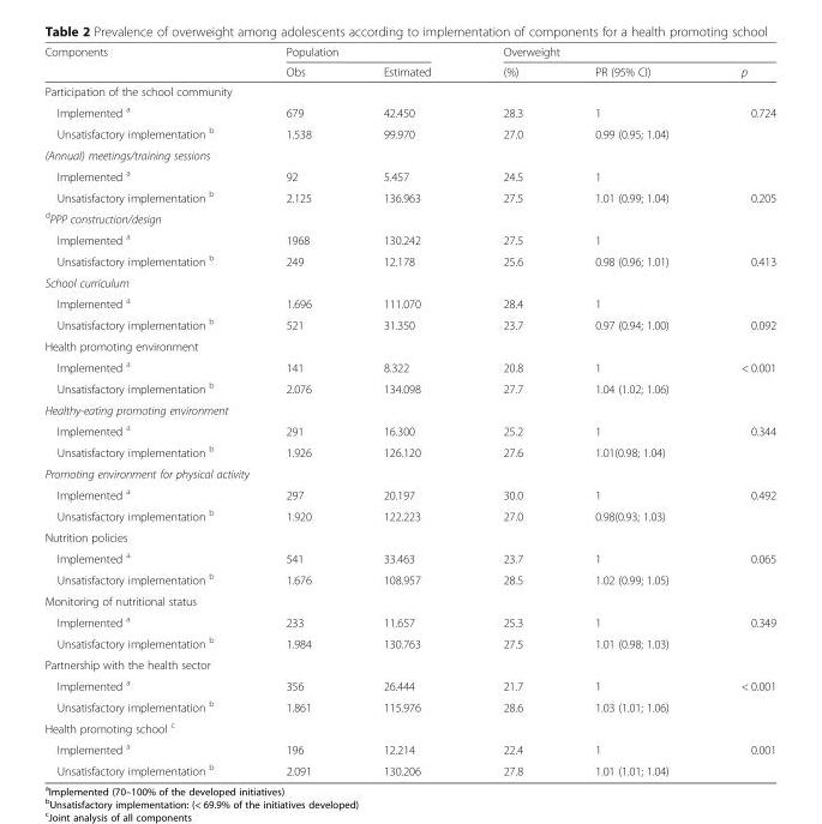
<table><thead><tr><td rowspan="2">Components</td><td colspan="2">Population</td><td colspan="3">Overweight</td></tr><tr><td>Obs</td><td>Estimated</td><td>(%)</td><td>PR (95% CI)</td><td>p</td></tr></thead><tbody><tr><td colspan="6">Participation of the school community</td></tr><tr><td>Implemented <sup>a</sup></td><td>679</td><td>42.450</td><td>28.3</td><td>1</td><td rowspan="2">0.724</td></tr><tr><td>Unsatisfactory implementation <sup>b</sup></td><td>1.538</td><td>99.970</td><td>27.0</td><td>0.99 (0.95; 1.04)</td></tr><tr><td colspan="6">(Annual) meetings/training sessions</td></tr><tr><td>Implemented <sup>a</sup></td><td>92</td><td>5.457</td><td>24.5</td><td>1</td><td></td></tr><tr><td>Unsatisfactory implementation <sup>b</sup></td><td>2.125</td><td>136.963</td><td>27.5</td><td>1.01 (0.99; 1.04)</td><td>0.205</td></tr><tr><td colspan="6"><sup>d</sup>PPP construction/design</td></tr><tr><td>Implemented <sup>a</sup></td><td>1968</td><td>130.242</td><td>27.5</td><td>1</td><td></td></tr><tr><td>Unsatisfactory implementation <sup>b</sup></td><td>249</td><td>12.178</td><td>25.6</td><td>0.98 (0.96; 1.01)</td><td>0.413</td></tr><tr><td colspan="6">School curriculum</td></tr><tr><td>Implemented <sup>a</sup></td><td>1.696</td><td>111.070</td><td>28.4</td><td>1</td><td></td></tr><tr><td>Unsatisfactory implementation <sup>b</sup></td><td>521</td><td>31.350</td><td>23.7</td><td>0.97 (0.94; 1.00)</td><td>0.092</td></tr><tr><td colspan="6">Health promoting environment</td></tr><tr><td>Implemented <sup>a</sup></td><td>141</td><td>8.322</td><td>20.8</td><td>1</td><td rowspan="2">&lt; 0.001</td></tr><tr><td>Unsatisfactory implementation <sup>b</sup></td><td>2.076</td><td>134.098</td><td>27.7</td><td>1.04 (1.02; 1.06)</td></tr><tr><td colspan="6">Healthy-eating promoting environment</td></tr><tr><td>Implemented <sup>a</sup></td><td>291</td><td>16.300</td><td>25.2</td><td>1</td><td rowspan="2">0.344</td></tr><tr><td>Unsatisfactory implementation <sup>b</sup></td><td>1.926</td><td>126.120</td><td>27.6</td><td>1.01(0.98; 1.04)</td></tr><tr><td colspan="6">Promoting environment for physical activity</td></tr><tr><td>Implemented <sup>a</sup></td><td>297</td><td>20.197</td><td>30.0</td><td>1</td><td rowspan="2">0.492</td></tr><tr><td>Unsatisfactory implementation <sup>b</sup></td><td>1.920</td><td>122.223</td><td>27.0</td><td>0.98(0.93; 1.03)</td></tr><tr><td colspan="6">Nutrition policies</td></tr><tr><td>Implemented <sup>a</sup></td><td>541</td><td>33.463</td><td>23.7</td><td>1</td><td rowspan="2">0.065</td></tr><tr><td>Unsatisfactory implementation <sup>b</sup></td><td>1.676</td><td>108.957</td><td>28.5</td><td>1.02 (0.99; 1.05)</td></tr><tr><td colspan="6">Monitoring of nutritional status</td></tr><tr><td>Implemented <sup>a</sup></td><td>233</td><td>11.657</td><td>25.3</td><td>1</td><td rowspan="2">0.349</td></tr><tr><td>Unsatisfactory implementation <sup>b</sup></td><td>1.984</td><td>130.763</td><td>27.5</td><td>1.01 (0.98; 1.03)</td></tr><tr><td colspan="6">Partnership with the health sector</td></tr><tr><td>Implemented <sup>a</sup></td><td>356</td><td>26.444</td><td>21.7</td><td>1</td><td rowspan="2">&lt; 0.001</td></tr><tr><td>Unsatisfactory implementation <sup>b</sup></td><td>1.861</td><td>115.976</td><td>28.6</td><td>1.03 (1.01; 1.06)</td></tr><tr><td colspan="6">Health promoting school <sup>c</sup></td></tr><tr><td>Implemented <sup>a</sup></td><td>196</td><td>12.214</td><td>22.4</td><td>1</td><td rowspan="2">0.001</td></tr><tr><td>Unsatisfactory implementation <sup>b</sup></td><td>2.091</td><td>130.206</td><td>27.8</td><td>1.01 (1.01; 1.04)</td></tr></tbody></table>